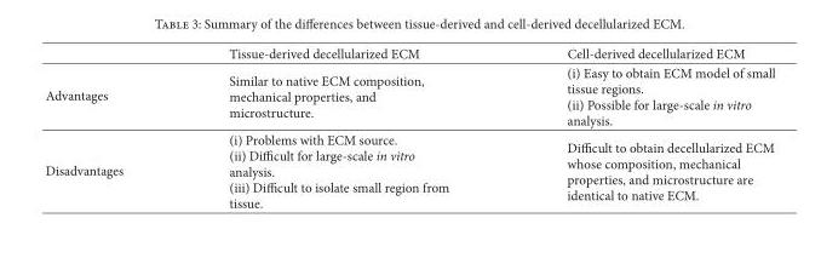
<table><thead><tr><td></td><td>Tissue-derived decellularized ECM</td><td>Cell-derived decellularized ECM</td></tr></thead><tbody><tr><td>Advantages</td><td>Similar to native ECM composition, mechanical properties, and microstructure.</td><td>(i) Easy to obtain ECM model of small tissue regions. (ii) Possible for large-scale in vitro analysis.</td></tr><tr><td>Disadvantages</td><td>(i) Problems with ECM source. (ii) Difficult for large-scale in vitro analysis. (iii) Difficult to isolate small region from tissue.</td><td>Difficult to obtain decellularized ECM whose composition, mechanical properties, and microstructure are identical to native ECM.</td></tr></tbody></table>